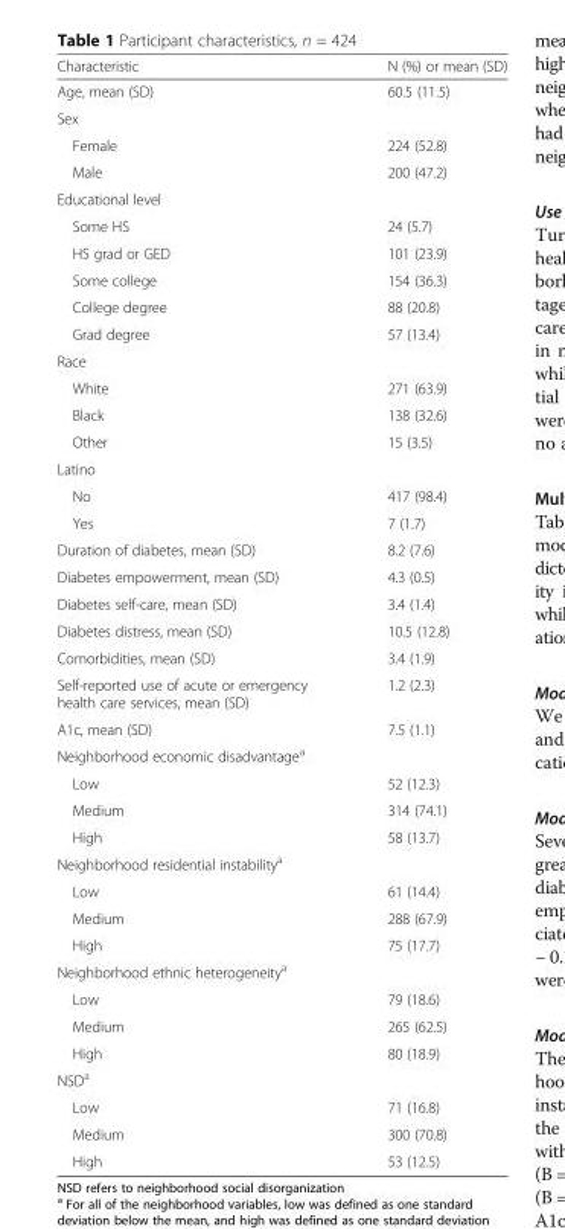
<table><thead><tr><td>Characteristic</td><td>N (%) or mean (SD)</td></tr></thead><tbody><tr><td>Age, mean (SD)</td><td>60.5 (11.5)</td></tr><tr><td colspan="2">Sex</td></tr><tr><td>Female</td><td>224 (52.8)</td></tr><tr><td>Male</td><td>200 (47.2)</td></tr><tr><td colspan="2">Educational level</td></tr><tr><td>Some HS</td><td>24 (5.7)</td></tr><tr><td>HS grad or GED</td><td>101 (23.9)</td></tr><tr><td>Some college</td><td>154 (36.3)</td></tr><tr><td>College degree</td><td>88 (20.8)</td></tr><tr><td>Grad degree</td><td>57 (13.4)</td></tr><tr><td colspan="2">Race</td></tr><tr><td>White</td><td>271 (63.9)</td></tr><tr><td>Black</td><td>138 (32.6)</td></tr><tr><td>Other</td><td>15 (3.5)</td></tr><tr><td colspan="2">Latino</td></tr><tr><td>No</td><td>417 (98.4)</td></tr><tr><td>Yes</td><td>7 (1.7)</td></tr><tr><td>Duration of diabetes, mean (SD)</td><td>8.2 (7.6)</td></tr><tr><td>Diabetes empowerment, mean (SD)</td><td>4.3 (0.5)</td></tr><tr><td>Diabetes self-care, mean (SD)</td><td>3.4 (1.4)</td></tr><tr><td>Diabetes distress, mean (SD)</td><td>10.5 (12.8)</td></tr><tr><td>Comorbidities, mean (SD)</td><td>3.4 (1.9)</td></tr><tr><td>Self-reported use of acute or emergency health care services, mean (SD)</td><td>1.2 (2.3)</td></tr><tr><td>A1c, mean (SD)</td><td>7.5 (1.1)</td></tr><tr><td colspan="2">Neighborhood economic disadvantage<sup>a</sup></td></tr><tr><td>Low</td><td>52 (12.3)</td></tr><tr><td>Medium</td><td>314 (74.1)</td></tr><tr><td>High</td><td>58 (13.7)</td></tr><tr><td colspan="2">Neighborhood residential instability<sup>a</sup></td></tr><tr><td>Low</td><td>61 (14.4)</td></tr><tr><td>Medium</td><td>288 (67.9)</td></tr><tr><td>High</td><td>75 (17.7)</td></tr><tr><td colspan="2">Neighborhood ethnic heterogeneity<sup>a</sup></td></tr><tr><td>Low</td><td>79 (18.6)</td></tr><tr><td>Medium</td><td>265 (62.5)</td></tr><tr><td>High</td><td>80 (18.9)</td></tr><tr><td colspan="2">NSD<sup>a</sup></td></tr><tr><td>Low</td><td>71 (16.8)</td></tr><tr><td>Medium</td><td>300 (70.8)</td></tr><tr><td>High</td><td>53 (12.5)</td></tr></tbody></table>